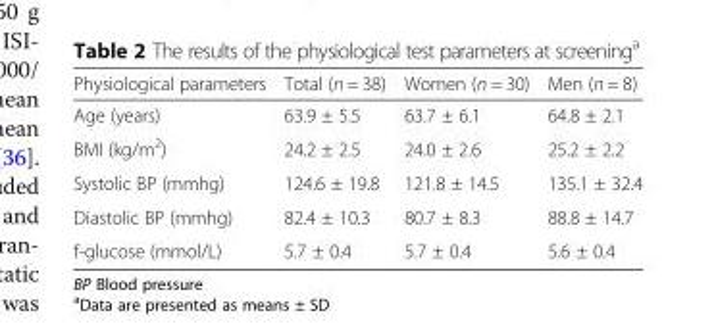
<table><thead><tr><td>Physiological parameters</td><td>Total (n = 38)</td><td>Women (n = 30)</td><td>Men (n = 8)</td></tr></thead><tbody><tr><td>Age (years)</td><td>63.9 ± 5.5</td><td>63.7 ± 6.1</td><td>64.8 ± 2.1</td></tr><tr><td>BMI (kg/m<sup>2</sup>)</td><td>24.2 ± 2.5</td><td>24.0 ± 2.6</td><td>25.2 ± 2.2</td></tr><tr><td>Systolic BP (mmhg)</td><td>124.6 ± 19.8</td><td>121.8 ± 14.5</td><td>135.1 ± 32.4</td></tr><tr><td>Diastolic BP (mmhg)</td><td>82.4 ± 10.3</td><td>80.7 ± 8.3</td><td>88.8 ± 14.7</td></tr><tr><td>f-glucose (mmol/L)</td><td>5.7 ± 0.4</td><td>5.7 ± 0.4</td><td>5.6 ± 0.4</td></tr></tbody></table>